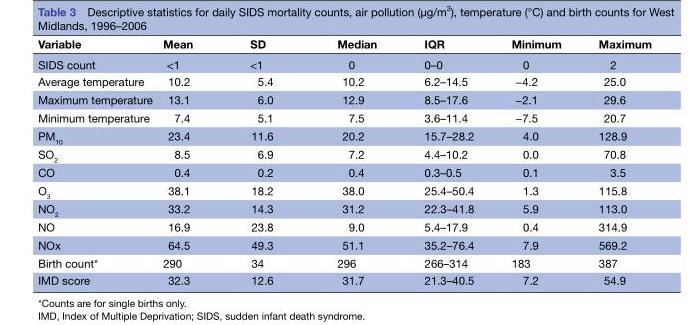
<table><thead><tr><td>Variable</td><td>Mean</td><td>SD</td><td>Median</td><td>IQR</td><td>Minimum</td><td>Maximum</td></tr></thead><tbody><tr><td>SIDS count</td><td>&lt;1</td><td>&lt;1</td><td>0</td><td>0–0</td><td>0</td><td>2</td></tr><tr><td>Average temperature</td><td>10.2</td><td>5.4</td><td>10.2</td><td>6.2–14.5</td><td>−4.2</td><td>25.0</td></tr><tr><td>Maximum temperature</td><td>13.1</td><td>6.0</td><td>12.9</td><td>8.5–17.6</td><td>−2.1</td><td>29.6</td></tr><tr><td>Minimum temperature</td><td>7.4</td><td>5.1</td><td>7.5</td><td>3.6–11.4</td><td>−7.5</td><td>20.7</td></tr><tr><td>PM<sub>10</sub></td><td>23.4</td><td>11.6</td><td>20.2</td><td>15.7–28.2</td><td>4.0</td><td>128.9</td></tr><tr><td>SO<sub>2</sub></td><td>8.5</td><td>6.9</td><td>7.2</td><td>4.4–10.2</td><td>0.0</td><td>70.8</td></tr><tr><td>CO</td><td>0.4</td><td>0.2</td><td>0.4</td><td>0.3–0.5</td><td>0.1</td><td>3.5</td></tr><tr><td>O<sub>3</sub></td><td>38.1</td><td>18.2</td><td>38.0</td><td>25.4–50.4</td><td>1.3</td><td>115.8</td></tr><tr><td>NO<sub>2</sub></td><td>33.2</td><td>14.3</td><td>31.2</td><td>22.3–41.8</td><td>5.9</td><td>113.0</td></tr><tr><td>NO</td><td>16.9</td><td>23.8</td><td>9.0</td><td>5.4–17.9</td><td>0.4</td><td>314.9</td></tr><tr><td>NOx</td><td>64.5</td><td>49.3</td><td>51.1</td><td>35.2–76.4</td><td>7.9</td><td>569.2</td></tr><tr><td>Birth count*</td><td>290</td><td>34</td><td>296</td><td>266–314</td><td>183</td><td>387</td></tr><tr><td>IMD score</td><td>32.3</td><td>12.6</td><td>31.7</td><td>21.3–40.5</td><td>7.2</td><td>54.9</td></tr></tbody></table>